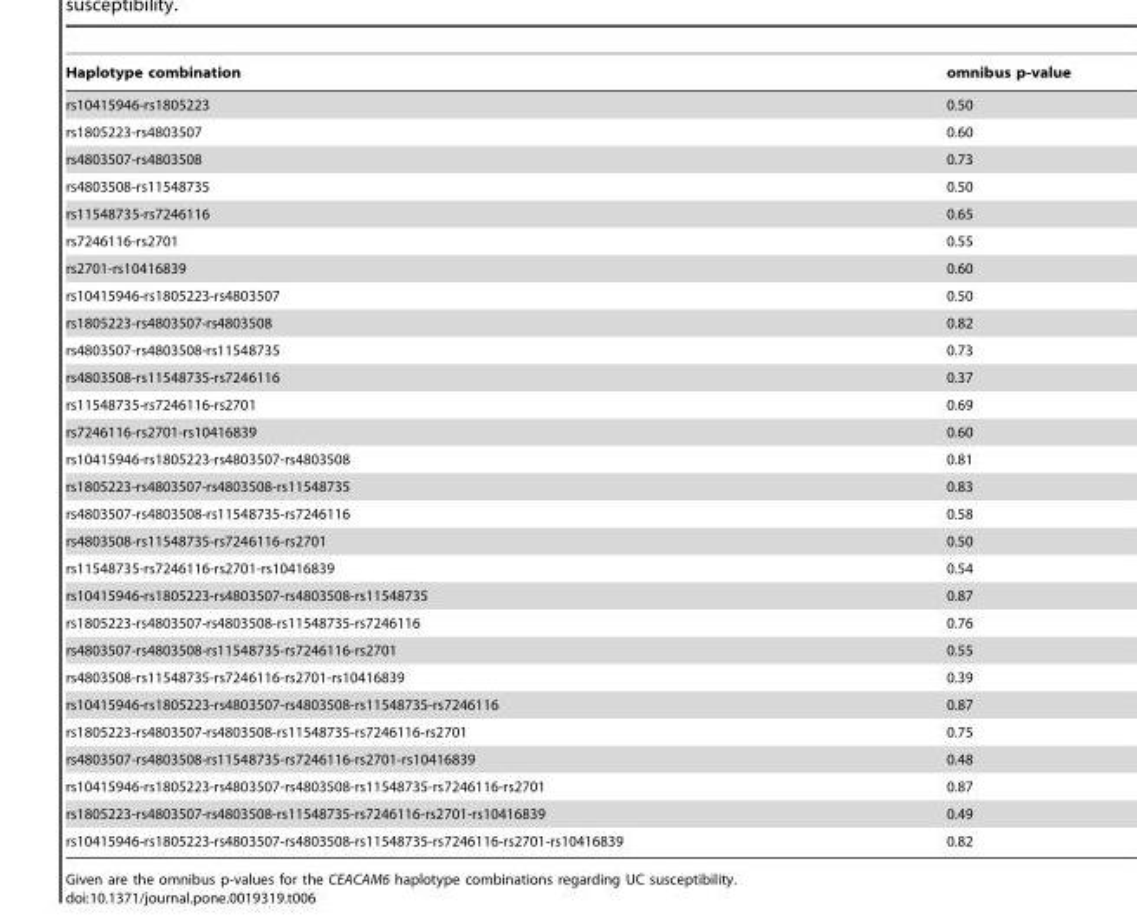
<table><thead><tr><td>Haplotype combination</td><td>omnibus p-value</td></tr></thead><tbody><tr><td>rs10415946-rs1805223</td><td>0.50</td></tr><tr><td>rs1805223-rs4803507</td><td>0.60</td></tr><tr><td>rs4803507-rs4803508</td><td>0.73</td></tr><tr><td>rs4803508-rs11548735</td><td>0.50</td></tr><tr><td>rs11548735-rs7246116</td><td>0.65</td></tr><tr><td>rs7246116-rs2701</td><td>0.55</td></tr><tr><td>rs2701-rs10416839</td><td>0.60</td></tr><tr><td>rs10415946-rs1805223-rs4803507</td><td>0.50</td></tr><tr><td>rs1805223-rs4803507-rs4803508</td><td>0.82</td></tr><tr><td>rs4803507-rs4803508-rs11548735</td><td>0.73</td></tr><tr><td>rs4803508-rs11548735-rs7246116</td><td>0.37</td></tr><tr><td>rs11548735-rs7246116-rs2701</td><td>0.69</td></tr><tr><td>rs7246116-rs2701-rs10416839</td><td>0.60</td></tr><tr><td>rs10415946-rs1805223-rs4803507-rs4803508</td><td>0.81</td></tr><tr><td>rs1805223-rs4803507-rs4803508-rs11548735</td><td>0.83</td></tr><tr><td>rs4803507-rs4803508-rs11548735-rs7246116</td><td>0.58</td></tr><tr><td>rs4803508-rs11548735-rs7246116-rs2701</td><td>0.50</td></tr><tr><td>rs11548735-rs7246116-rs2701-rs10416839</td><td>0.54</td></tr><tr><td>rs10415946-rs1805223-rs4803507-rs4803508-rs11548735</td><td>0.87</td></tr><tr><td>rs1805223-rs4803507-rs4803508-rs11548735-rs7246116</td><td>0.76</td></tr><tr><td>rs4803507-rs4803508-rs11548735-rs7246116-rs2701</td><td>0.55</td></tr><tr><td>rs4803508-rs11548735-rs7246116-rs2701-rs10416839</td><td>0.39</td></tr><tr><td>rs10415946-rs1805223-rs4803507-rs4803508-rs11548735-rs7246116</td><td>0.87</td></tr><tr><td>rs1805223-rs4803507-rs4803508-rs11548735-rs7246116-rs2701</td><td>0.75</td></tr><tr><td>rs4803507-rs4803508-rs11548735-rs7246116-rs2701-rs10416839</td><td>0.48</td></tr><tr><td>rs10415946-rs1805223-rs4803507-rs4803508-rs11548735-rs7246116-rs2701</td><td>0.87</td></tr><tr><td>rs1805223-rs4803507-rs4803508-rs11548735-rs7246116-rs2701-rs10416839</td><td>0.49</td></tr><tr><td>rs10415946-rs1805223-rs4803507-rs4803508-rs11548735-rs7246116-rs2701-rs10416839</td><td>0.82</td></tr></tbody></table>